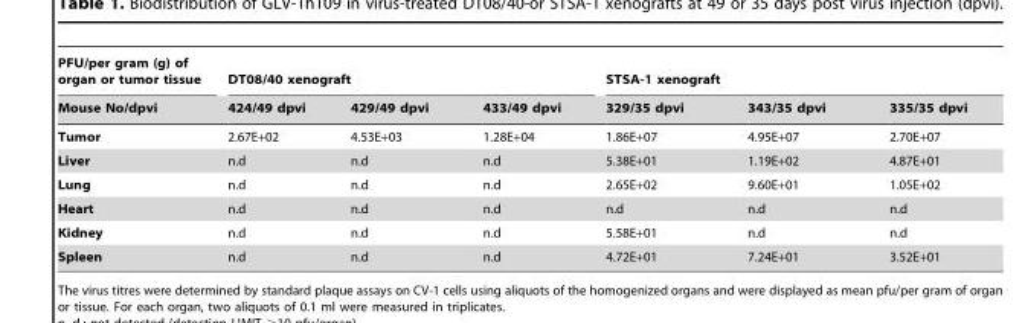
<table><thead><tr><td rowspan="2">PFU/per gram (g) of organ or tumor tissue Mouse No/dpvi</td><td colspan="3">DT08/40 xenograft</td><td colspan="3">STSA-1 xenograft</td></tr><tr><td>424/49 dpvi</td><td>429/49 dpvi</td><td>433/49 dpvi</td><td>329/35 dpvi</td><td>343/35 dpvi</td><td>335/35 dpvi</td></tr></thead><tbody><tr><td>Tumor</td><td>2.67E+02</td><td>4.53E+03</td><td>1.28E+04</td><td>1.86E+07</td><td>4.95E+07</td><td>2.70E+07</td></tr><tr><td>Liver</td><td>n.d</td><td>n.d</td><td>n.d</td><td>5.38E+01</td><td>1.19E+02</td><td>4.87E+01</td></tr><tr><td>Lung</td><td>n.d</td><td>n.d</td><td>n.d</td><td>2.65E+02</td><td>9.60E+01</td><td>1.05E+02</td></tr><tr><td>Heart</td><td>n.d</td><td>n.d</td><td>n.d</td><td>n.d</td><td>n.d</td><td>n.d</td></tr><tr><td>Kidney</td><td>n.d</td><td>n.d</td><td>n.d</td><td>5.58E+01</td><td>n.d</td><td>n.d</td></tr><tr><td>Spleen</td><td>n.d</td><td>n.d</td><td>n.d</td><td>4.72E+01</td><td>7.24E+01</td><td>3.52E+01</td></tr></tbody></table>